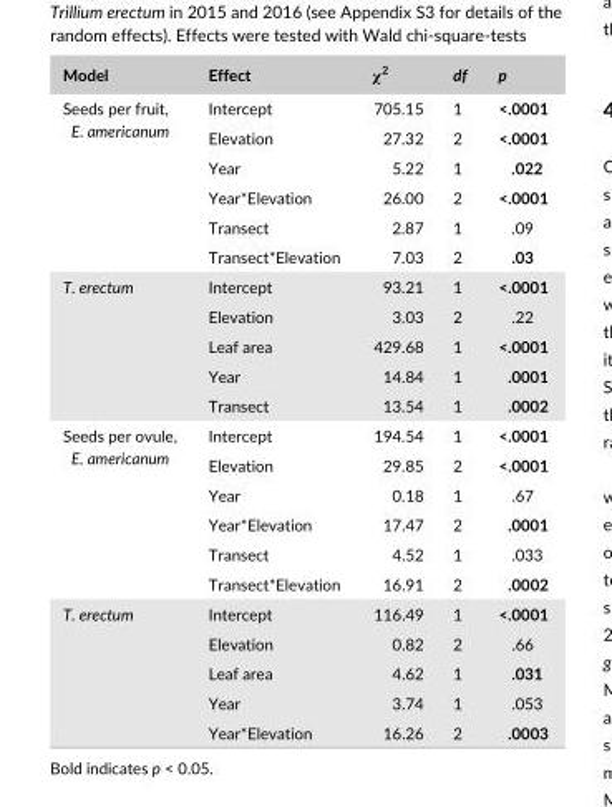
<table><thead><tr><td>Model</td><td>Effect</td><td>χ<sup>2</sup></td><td>df</td><td>p</td></tr></thead><tbody><tr><td rowspan="6">Seeds per fruit, E. americanum</td><td>Intercept</td><td>705.15</td><td>1</td><td>&lt;.0001</td></tr><tr><td>Elevation</td><td>27.32</td><td>2</td><td>&lt;.0001</td></tr><tr><td>Year</td><td>5.22</td><td>1</td><td>.022</td></tr><tr><td>Year*Elevation</td><td>26.00</td><td>2</td><td>&lt;.0001</td></tr><tr><td>Transect</td><td>2.87</td><td>1</td><td>.09</td></tr><tr><td>Transect*Elevation</td><td>7.03</td><td>2</td><td>.03</td></tr><tr><td rowspan="5">T. erectum</td><td>Intercept</td><td>93.21</td><td>1</td><td>&lt;.0001</td></tr><tr><td>Elevation</td><td>3.03</td><td>2</td><td>.22</td></tr><tr><td>Leaf area</td><td>429.68</td><td>1</td><td>&lt;.0001</td></tr><tr><td>Year</td><td>14.84</td><td>1</td><td>.0001</td></tr><tr><td>Transect</td><td>13.54</td><td>1</td><td>.0002</td></tr><tr><td rowspan="6">Seeds per ovule, E. americanum</td><td>Intercept</td><td>194.54</td><td>1</td><td>&lt;.0001</td></tr><tr><td>Elevation</td><td>29.85</td><td>2</td><td>&lt;.0001</td></tr><tr><td>Year</td><td>0.18</td><td>1</td><td>.67</td></tr><tr><td>Year*Elevation</td><td>17.47</td><td>2</td><td>.0001</td></tr><tr><td>Transect</td><td>4.52</td><td>1</td><td>.033</td></tr><tr><td>Transect*Elevation</td><td>16.91</td><td>2</td><td>.0002</td></tr><tr><td rowspan="5">T. erectum</td><td>Intercept</td><td>116.49</td><td>1</td><td>&lt;.0001</td></tr><tr><td>Elevation</td><td>0.82</td><td>2</td><td>.66</td></tr><tr><td>Leaf area</td><td>4.62</td><td>1</td><td>.031</td></tr><tr><td>Year</td><td>3.74</td><td>1</td><td>.053</td></tr><tr><td>Year*Elevation</td><td>16.26</td><td>2</td><td>.0003</td></tr></tbody></table>